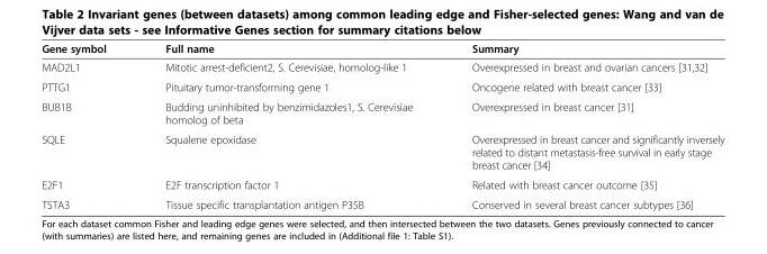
<table><thead><tr><td>Gene symbol</td><td>Full name</td><td>Summary</td></tr></thead><tbody><tr><td>MAD2L1</td><td>Mitotic arrest-deficient2, S. Cerevisiae, homolog-like 1</td><td>Overexpressed in breast and ovarian cancers [31,32]</td></tr><tr><td>PTTG1</td><td>Pituitary tumor-transforming gene 1</td><td>Oncogene related with breast cancer [33]</td></tr><tr><td>BUB1B</td><td>Budding uninhibited by benzimidazoles1, S. Cerevisiae homolog of beta</td><td>Overexpressed in breast cancer [31]</td></tr><tr><td>SQLE</td><td>Squalene epoxidase</td><td>Overexpressed in breast cancer and significantly inversely related to distant metastasis-free survival in early stage breast cancer [34]</td></tr><tr><td>E2F1</td><td>E2F transcription factor 1</td><td>Related with breast cancer outcome [35]</td></tr><tr><td>TSTA3</td><td>Tissue specific transplantation antigen P35B</td><td>Conserved in several breast cancer subtypes [36]</td></tr></tbody></table>